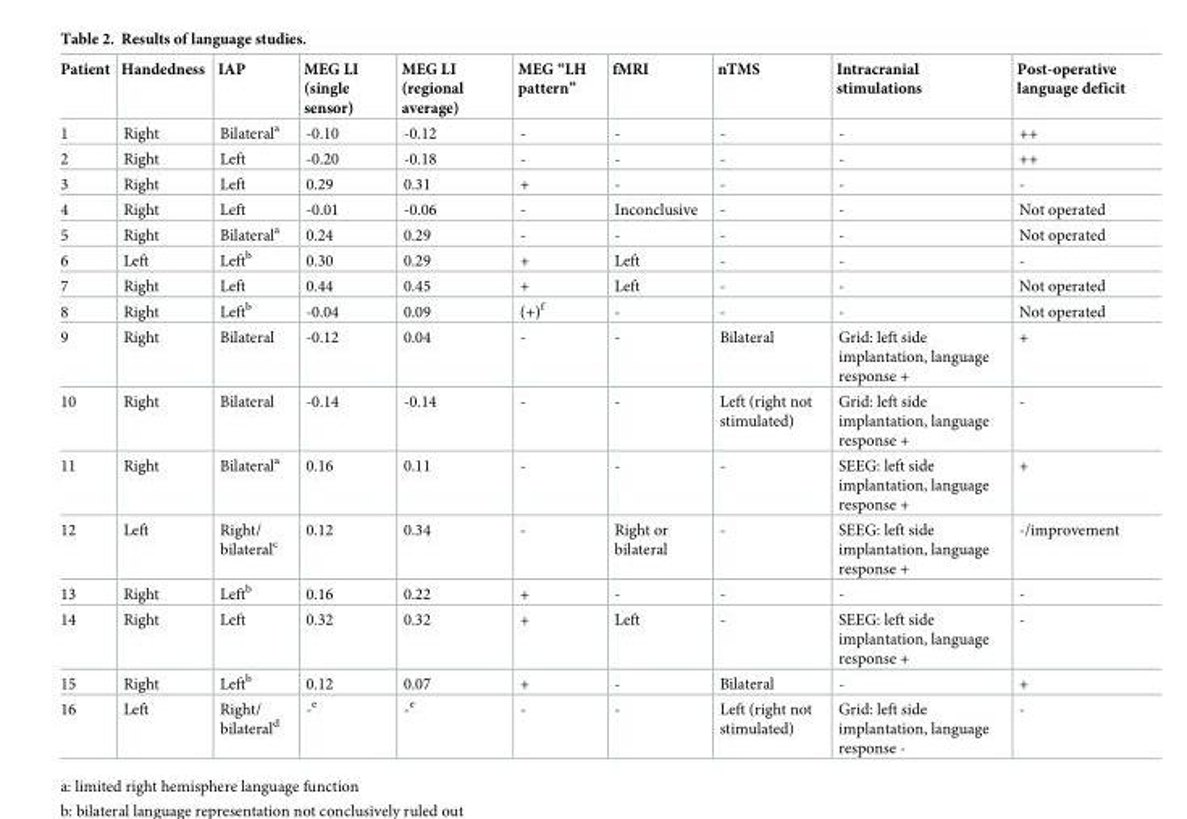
<table><thead><tr><td>Patient</td><td>Handedness</td><td>IAP</td><td>MEG LI (single sensor)</td><td>MEG LI (regional average)</td><td>MEG “LH pattern”</td><td>fMRI</td><td>nTMS</td><td>Intracranial stimulations</td><td>Post-operative language deficit</td></tr></thead><tbody><tr><td>1</td><td>Right</td><td>Bilateral<sup>a</sup></td><td>-0.10</td><td>-0.12</td><td>-</td><td>-</td><td>-</td><td>-</td><td>++</td></tr><tr><td>2</td><td>Right</td><td>Left</td><td>-0.20</td><td>-0.18</td><td>-</td><td>-</td><td>-</td><td>-</td><td>++</td></tr><tr><td>3</td><td>Right</td><td>Left</td><td>0.29</td><td>0.31</td><td>+</td><td>-</td><td>-</td><td>-</td><td>-</td></tr><tr><td>4</td><td>Right</td><td>Left</td><td>-0.01</td><td>-0.06</td><td>-</td><td>Inconclusive</td><td>-</td><td>-</td><td>Not operated</td></tr><tr><td>5</td><td>Right</td><td>Bilateral<sup>a</sup></td><td>0.24</td><td>0.29</td><td>-</td><td>-</td><td>-</td><td>-</td><td>Not operated</td></tr><tr><td>6</td><td>Left</td><td>Left<sup>b</sup></td><td>0.30</td><td>0.29</td><td>+</td><td>Left</td><td>-</td><td>-</td><td>-</td></tr><tr><td>7</td><td>Right</td><td>Left</td><td>0.44</td><td>0.45</td><td>+</td><td>Left</td><td>-</td><td>-</td><td>Not operated</td></tr><tr><td>8</td><td>Right</td><td>Left<sup>b</sup></td><td>-0.04</td><td>0.09</td><td>(+)<sup>f</sup></td><td>-</td><td>-</td><td>-</td><td>Not operated</td></tr><tr><td>9</td><td>Right</td><td>Bilateral</td><td>-0.12</td><td>0.04</td><td>-</td><td>-</td><td>Bilateral</td><td>Grid: left side implantation, language response +</td><td>+</td></tr><tr><td>10</td><td>Right</td><td>Bilateral</td><td>-0.14</td><td>-0.14</td><td>-</td><td>-</td><td>Left (right not stimulated)</td><td>Grid: left side implantation, language response +</td><td>-</td></tr><tr><td>11</td><td>Right</td><td>Bilateral<sup>a</sup></td><td>0.16</td><td>0.11</td><td>-</td><td>-</td><td>-</td><td>SEEG: left side implantation, language response +</td><td>+</td></tr><tr><td>12</td><td>Left</td><td>Right/ bilateral<sup>c</sup></td><td>0.12</td><td>0.34</td><td>-</td><td>Right or bilateral</td><td>-</td><td>SEEG: left side implantation, language response +</td><td>-/improvement</td></tr><tr><td>13</td><td>Right</td><td>Left<sup>b</sup></td><td>0.16</td><td>0.22</td><td>+</td><td>-</td><td>-</td><td>-</td><td>-</td></tr><tr><td>14</td><td>Right</td><td>Left</td><td>0.32</td><td>0.32</td><td>+</td><td>Left</td><td>-</td><td>SEEG: left side implantation, language response +</td><td>-</td></tr><tr><td>15</td><td>Right</td><td>Left<sup>b</sup></td><td>0.12</td><td>0.07</td><td>+</td><td>-</td><td>Bilateral</td><td>-</td><td>+</td></tr><tr><td>16</td><td>Left</td><td>Right/ bilateral<sup>d</sup></td><td>-<sup>e</sup></td><td>-<sup>e</sup></td><td>-</td><td>-</td><td>Left (right not stimulated)</td><td>Grid: left side implantation, language response -</td><td>-</td></tr></tbody></table>